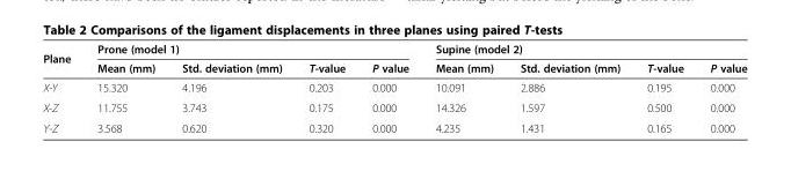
<table><thead><tr><td rowspan="2">Plane</td><td colspan="4">Prone (model 1)</td><td colspan="4">Supine (model 2)</td></tr><tr><td>Mean (mm)</td><td>Std. deviation (mm)</td><td>T-value</td><td>P value</td><td>Mean (mm)</td><td>Std. deviation (mm)</td><td>T-value</td><td>P value</td></tr></thead><tbody><tr><td>X-Y</td><td>15.320</td><td>4.196</td><td>0.203</td><td>0.000</td><td>10.091</td><td>2.886</td><td>0.195</td><td>0.000</td></tr><tr><td>X-Z</td><td>11.755</td><td>3.743</td><td>0.175</td><td>0.000</td><td>14.326</td><td>1.597</td><td>0.500</td><td>0.000</td></tr><tr><td>Y-Z</td><td>3.568</td><td>0.620</td><td>0.320</td><td>0.000</td><td>4.235</td><td>1.431</td><td>0.165</td><td>0.000</td></tr></tbody></table>